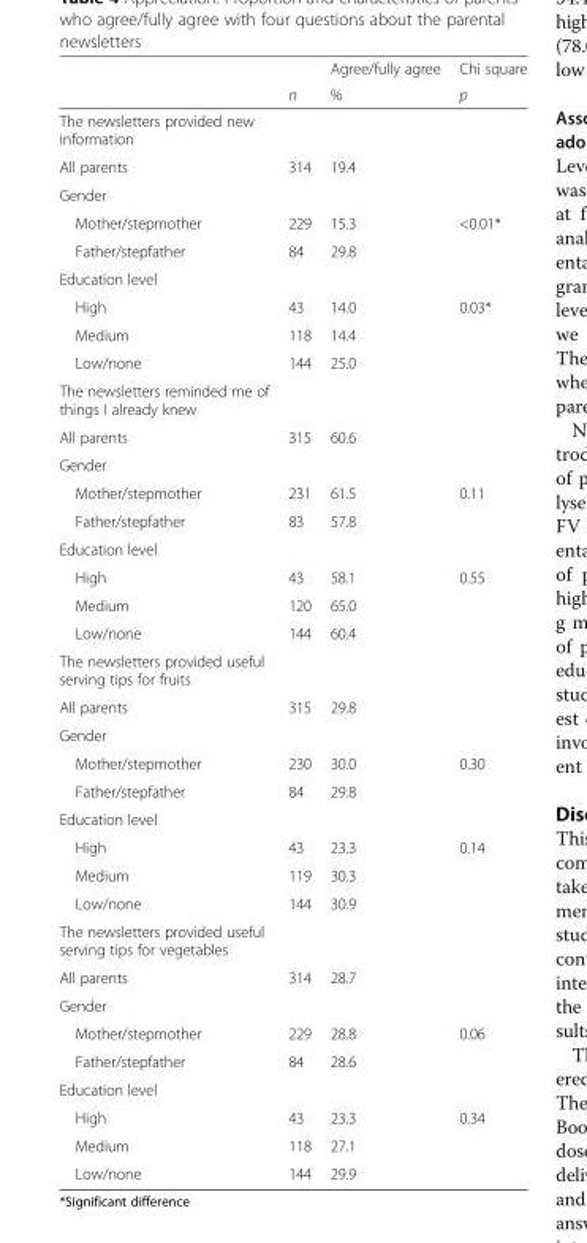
<table><thead><tr><td rowspan="2"></td><td rowspan="2">n</td><td rowspan="2">Agree/fully agree %</td><td rowspan="2">Chi square p</td></tr><tr></tr></thead><tbody><tr><td colspan="4">The newsletters provided new information</td></tr><tr><td>All parents</td><td>314</td><td>19.4</td><td></td></tr><tr><td colspan="4">Gender</td></tr><tr><td>Mother/stepmother</td><td>229</td><td>15.3</td><td>&lt;0.01*</td></tr><tr><td>Father/stepfather</td><td>84</td><td>29.8</td><td></td></tr><tr><td colspan="4">Education level</td></tr><tr><td>High</td><td>43</td><td>14.0</td><td>0.03*</td></tr><tr><td>Medium</td><td>118</td><td>14.4</td><td></td></tr><tr><td>Low/none</td><td>144</td><td>25.0</td><td></td></tr><tr><td colspan="4">The newsletters reminded me of things I already knew</td></tr><tr><td>All parents</td><td>315</td><td>60.6</td><td></td></tr><tr><td colspan="4">Gender</td></tr><tr><td>Mother/stepmother</td><td>231</td><td>61.5</td><td rowspan="2">0.11</td></tr><tr><td>Father/stepfather</td><td>83</td><td>57.8</td></tr><tr><td colspan="4">Education level</td></tr><tr><td>High</td><td>43</td><td>58.1</td><td rowspan="3">0.55</td></tr><tr><td>Medium</td><td>120</td><td>65.0</td></tr><tr><td>Low/none</td><td>144</td><td>60.4</td></tr><tr><td colspan="4">The newsletters provided useful serving tips for fruits</td></tr><tr><td>All parents</td><td>315</td><td>29.8</td><td></td></tr><tr><td colspan="4">Gender</td></tr><tr><td>Mother/stepmother</td><td>230</td><td>30.0</td><td rowspan="2">0.30</td></tr><tr><td>Father/stepfather</td><td>84</td><td>29.8</td></tr><tr><td colspan="4">Education level</td></tr><tr><td>High</td><td>43</td><td>23.3</td><td rowspan="3">0.14</td></tr><tr><td>Medium</td><td>119</td><td>30.3</td></tr><tr><td>Low/none</td><td>144</td><td>30.9</td></tr><tr><td colspan="4">The newsletters provided useful serving tips for vegetables</td></tr><tr><td>All parents</td><td>314</td><td>28.7</td><td></td></tr><tr><td colspan="4">Gender</td></tr><tr><td>Mother/stepmother</td><td>229</td><td>28.8</td><td rowspan="2">0.06</td></tr><tr><td>Father/stepfather</td><td>84</td><td>28.6</td></tr><tr><td colspan="4">Education level</td></tr><tr><td>High</td><td>43</td><td>23.3</td><td rowspan="3">0.34</td></tr><tr><td>Medium</td><td>118</td><td>27.1</td></tr><tr><td>Low/none</td><td>144</td><td>29.9</td></tr></tbody></table>